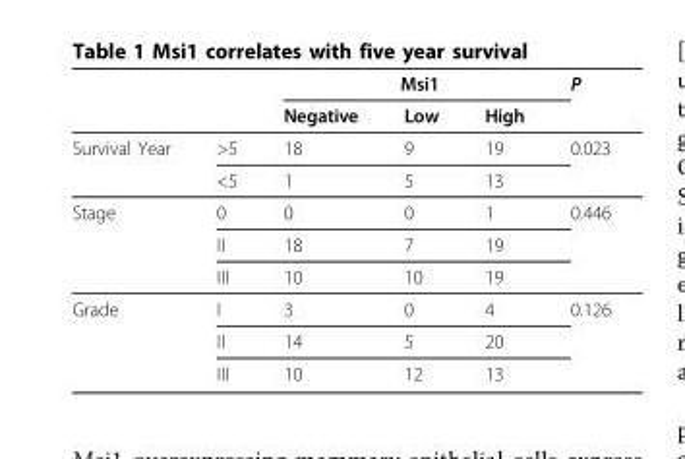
<table><thead><tr><td rowspan="2"></td><td rowspan="2"></td><td colspan="3">Msi1</td><td rowspan="2">P</td></tr><tr><td>Negative</td><td>Low</td><td>High</td></tr></thead><tbody><tr><td rowspan="2">Survival Year</td><td>&gt;5</td><td>18</td><td>9</td><td>19</td><td>0.023</td></tr><tr><td>&lt;5</td><td>1</td><td>5</td><td>13</td><td></td></tr><tr><td rowspan="3">Stage</td><td>0</td><td>0</td><td>0</td><td>1</td><td>0.446</td></tr><tr><td>II</td><td>18</td><td>7</td><td>19</td><td></td></tr><tr><td>III</td><td>10</td><td>10</td><td>19</td><td></td></tr><tr><td rowspan="3">Grade</td><td>I</td><td>3</td><td>0</td><td>4</td><td>0.126</td></tr><tr><td>II</td><td>14</td><td>5</td><td>20</td><td></td></tr><tr><td>III</td><td>10</td><td>12</td><td>13</td><td></td></tr></tbody></table>